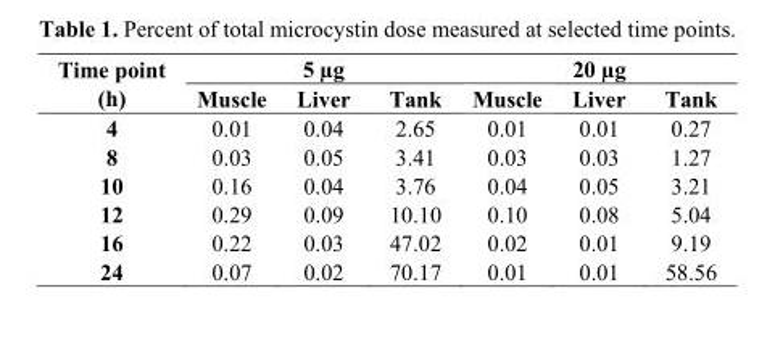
<table><thead><tr><td rowspan="2">Time point (h)</td><td colspan="3">5 µg</td><td colspan="3">20 µg</td></tr><tr><td>Muscle</td><td>Liver</td><td>Tank</td><td>Muscle</td><td>Liver</td><td>Tank</td></tr></thead><tbody><tr><td>4</td><td>0.01</td><td>0.04</td><td>2.65</td><td>0.01</td><td>0.01</td><td>0.27</td></tr><tr><td>8</td><td>0.03</td><td>0.05</td><td>3.41</td><td>0.03</td><td>0.03</td><td>1.27</td></tr><tr><td>10</td><td>0.16</td><td>0.04</td><td>3.76</td><td>0.04</td><td>0.05</td><td>3.21</td></tr><tr><td>12</td><td>0.29</td><td>0.09</td><td>10.10</td><td>0.10</td><td>0.08</td><td>5.04</td></tr><tr><td>16</td><td>0.22</td><td>0.03</td><td>47.02</td><td>0.02</td><td>0.01</td><td>9.19</td></tr><tr><td>24</td><td>0.07</td><td>0.02</td><td>70.17</td><td>0.01</td><td>0.01</td><td>58.56</td></tr></tbody></table>